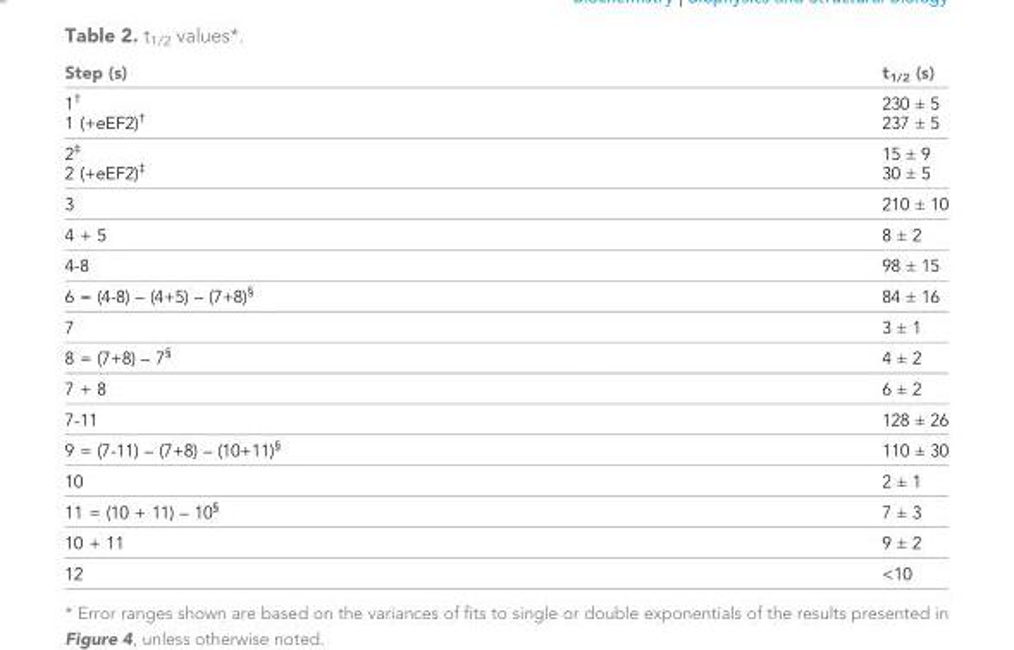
<table><thead><tr><td>Step (s)</td><td>t<sub>1/2</sub> (s)</td></tr></thead><tbody><tr><td>1<sup>†</sup> 1 (+eEF2)<sup>†</sup></td><td>230 ± 5 237 ± 5</td></tr><tr><td>2<sup>‡</sup> 2 (+eEF2)<sup>‡</sup></td><td>15 ± 9 30 ± 5</td></tr><tr><td>3</td><td>210 ± 10</td></tr><tr><td>4 + 5</td><td>8 ± 2</td></tr><tr><td>4-8</td><td>98 ± 15</td></tr><tr><td>6 = (4-8) – (4+5) – (7+8)<sup>§</sup></td><td>84 ± 16</td></tr><tr><td>7</td><td>3 ± 1</td></tr><tr><td>8 = (7+8) – 7<sup>§</sup></td><td>4 ± 2</td></tr><tr><td>7 + 8</td><td>6 ± 2</td></tr><tr><td>7-11</td><td>128 ± 26</td></tr><tr><td>9 = (7-11) – (7+8) – (10+11)<sup>§</sup></td><td>110 ± 30</td></tr><tr><td>10</td><td>2 ± 1</td></tr><tr><td>11 = (10 + 11) – 10<sup>§</sup></td><td>7 ± 3</td></tr><tr><td>10 + 11</td><td>9 ± 2</td></tr><tr><td>12</td><td>&lt;10</td></tr></tbody></table>